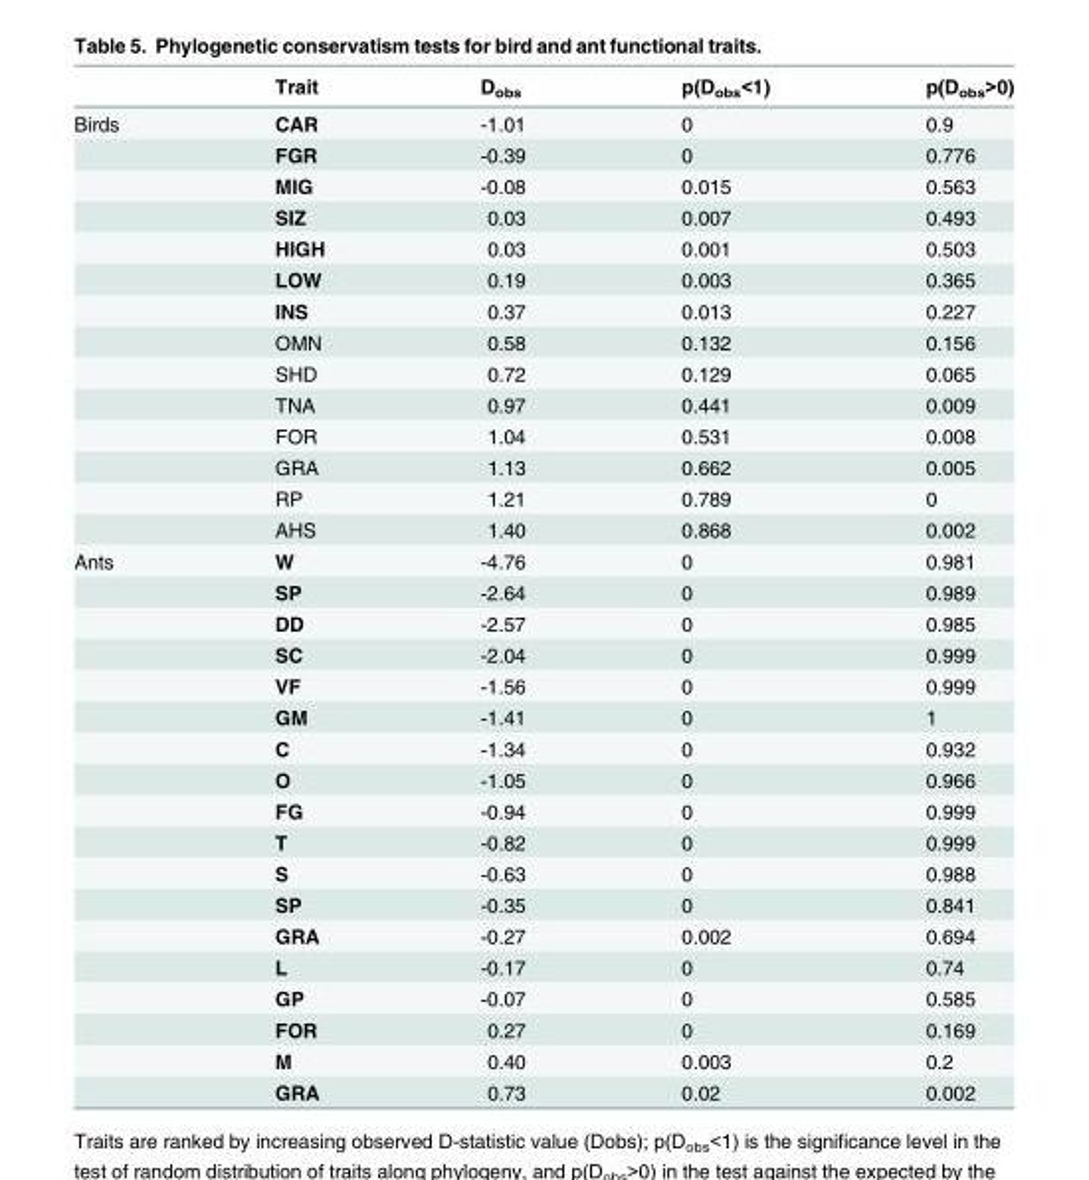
<table><thead><tr><td></td><td>Trait</td><td>D<sub>obs</sub></td><td>p(D<sub>obs</sub>&lt;1)</td><td>p(D<sub>obs</sub>&gt;0)</td></tr></thead><tbody><tr><td rowspan="14">Birds</td><td>CAR</td><td>-1.01</td><td>0</td><td>0.9</td></tr><tr><td>FGR</td><td>-0.39</td><td>0</td><td>0.776</td></tr><tr><td>MIG</td><td>-0.08</td><td>0.015</td><td>0.563</td></tr><tr><td>SIZ</td><td>0.03</td><td>0.007</td><td>0.493</td></tr><tr><td>HIGH</td><td>0.03</td><td>0.001</td><td>0.503</td></tr><tr><td>LOW</td><td>0.19</td><td>0.003</td><td>0.365</td></tr><tr><td>INS</td><td>0.37</td><td>0.013</td><td>0.227</td></tr><tr><td>OMN</td><td>0.58</td><td>0.132</td><td>0.156</td></tr><tr><td>SHD</td><td>0.72</td><td>0.129</td><td>0.065</td></tr><tr><td>TNA</td><td>0.97</td><td>0.441</td><td>0.009</td></tr><tr><td>FOR</td><td>1.04</td><td>0.531</td><td>0.008</td></tr><tr><td>GRA</td><td>1.13</td><td>0.662</td><td>0.005</td></tr><tr><td>RP</td><td>1.21</td><td>0.789</td><td>0</td></tr><tr><td>AHS</td><td>1.40</td><td>0.868</td><td>0.002</td></tr><tr><td rowspan="18">Ants</td><td>W</td><td>-4.76</td><td>0</td><td>0.981</td></tr><tr><td>SP</td><td>-2.64</td><td>0</td><td>0.989</td></tr><tr><td>DD</td><td>-2.57</td><td>0</td><td>0.985</td></tr><tr><td>SC</td><td>-2.04</td><td>0</td><td>0.999</td></tr><tr><td>VF</td><td>-1.56</td><td>0</td><td>0.999</td></tr><tr><td>GM</td><td>-1.41</td><td>0</td><td>1</td></tr><tr><td>C</td><td>-1.34</td><td>0</td><td>0.932</td></tr><tr><td>O</td><td>-1.05</td><td>0</td><td>0.966</td></tr><tr><td>FG</td><td>-0.94</td><td>0</td><td>0.999</td></tr><tr><td>T</td><td>-0.82</td><td>0</td><td>0.999</td></tr><tr><td>S</td><td>-0.63</td><td>0</td><td>0.988</td></tr><tr><td>SP</td><td>-0.35</td><td>0</td><td>0.841</td></tr><tr><td>GRA</td><td>-0.27</td><td>0.002</td><td>0.694</td></tr><tr><td>L</td><td>-0.17</td><td>0</td><td>0.74</td></tr><tr><td>GP</td><td>-0.07</td><td>0</td><td>0.585</td></tr><tr><td>FOR</td><td>0.27</td><td>0</td><td>0.169</td></tr><tr><td>M</td><td>0.40</td><td>0.003</td><td>0.2</td></tr><tr><td>GRA</td><td>0.73</td><td>0.02</td><td>0.002</td></tr></tbody></table>